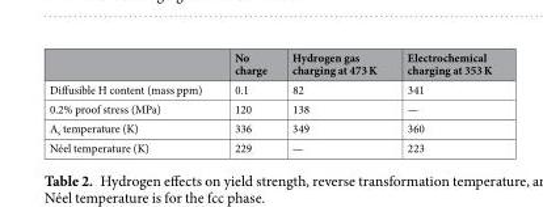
<table><thead><tr><td></td><td>No charge</td><td>Hydrogen gas charging at 473 K</td><td>Electrochemical charging at 353 K</td></tr></thead><tbody><tr><td>Diffusible H content (mass ppm)</td><td>0.1</td><td>82</td><td>341</td></tr><tr><td>0.2% proof stress (MPa)</td><td>120</td><td>138</td><td>—</td></tr><tr><td>A<sub>s</sub> temperature (K)</td><td>336</td><td>349</td><td>360</td></tr><tr><td>Néel temperature (K)</td><td>229</td><td>—</td><td>223</td></tr></tbody></table>